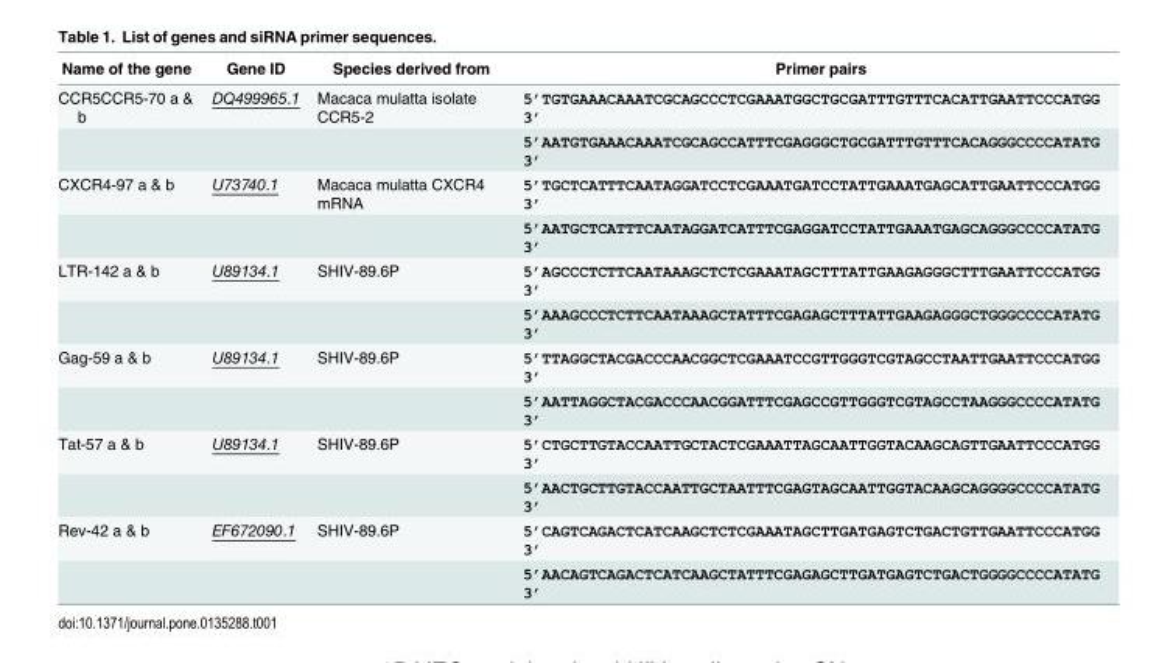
<table><thead><tr><td>Name of the gene</td><td>Gene ID</td><td>Species derived from</td><td>Primer pairs</td></tr></thead><tbody><tr><td rowspan="2">CCR5CCR5-70 a &amp; b</td><td>DQ499965.1</td><td>Macaca mulatta isolate CCR5-2</td><td>5’TGTGAAACAAATCGCAGCCCTCGAAATGGCTGCGATTTGTTTCACATTGAATTCCCATGG 3’</td></tr><tr><td></td><td></td><td>5’AATGTGAAACAAATCGCAGCCATTTCGAGGGCTGCGATTTGTTTCACAGGGCCCCATATG 3’</td></tr><tr><td rowspan="2">CXCR4-97 a &amp; b</td><td>U73740.1</td><td>Macaca mulatta CXCR4 mRNA</td><td>5’TGCTCATTTCAATAGGATCCTCGAAATGATCCTATTGAAATGAGCATTGAATTCCCATGG 3’</td></tr><tr><td></td><td></td><td>5’AATGCTCATTTCAATAGGATCATTTCGAGGATCCTATTGAAATGAGCAGGGCCCCATATG 3’</td></tr><tr><td rowspan="2">LTR-142 a &amp; b</td><td>U89134.1</td><td>SHIV-89.6P</td><td>5’AGCCCTCTTCAATAAAGCTCTCGAAATAGCTTTATTGAAGAGGGCTTTGAATTCCCATGG 3’</td></tr><tr><td></td><td></td><td>5’AAAGCCCTCTTCAATAAAGCTATTTCGAGAGCTTTATTGAAGAGGGCTGGGCCCCATATG 3’</td></tr><tr><td rowspan="2">Gag-59 a &amp; b</td><td>U89134.1</td><td>SHIV-89.6P</td><td>5’TTAGGCTACGACCCAACGGCTCGAAATCCGTTGGGTCGTAGCCTAATTGAATTCCCATGG 3’</td></tr><tr><td></td><td></td><td>5’AATTAGGCTACGACCCAACGGATTTCGAGCCGTTGGGTCGTAGCCTAAGGGCCCCATATG 3’</td></tr><tr><td rowspan="2">Tat-57 a &amp; b</td><td>U89134.1</td><td>SHIV-89.6P</td><td>5’CTGCTTGTACCAATTGCTACTCGAAATTAGCAATTGGTACAAGCAGTTGAATTCCCATGG 3’</td></tr><tr><td></td><td></td><td>5’AACTGCTTGTACCAATTGCTAATTTCGAGTAGCAATTGGTACAAGCAGGGGCCCCATATG 3’</td></tr><tr><td rowspan="2">Rev-42 a &amp; b</td><td>EF672090.1</td><td>SHIV-89.6P</td><td>5’CAGTCAGACTCATCAAGCTCTCGAAATAGCTTGATGAGTCTGACTGTTGAATTCCCATGG 3’</td></tr><tr><td></td><td></td><td>5’AACAGTCAGACTCATCAAGCTATTTCGAGAGCTTGATGAGTCTGACTGGGGCCCCATATG 3’</td></tr></tbody></table>